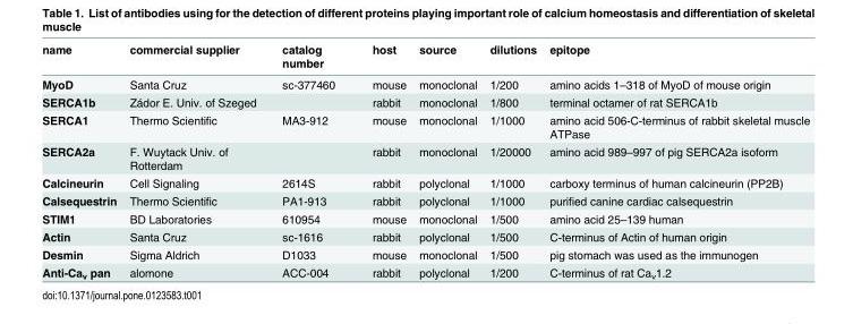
<table><thead><tr><td>name</td><td>commercial supplier</td><td>catalog number</td><td>host</td><td>source</td><td>dilutions</td><td>epitope</td></tr></thead><tbody><tr><td>MyoD</td><td>Santa Cruz</td><td>sc-377460</td><td>mouse</td><td>monoclonal</td><td>1/200</td><td>amino acids 1–318 of MyoD of mouse origin</td></tr><tr><td>SERCA1b</td><td>Zádor E. Univ. of Szeged</td><td></td><td>rabbit</td><td>monoclonal</td><td>1/800</td><td>terminal octamer of rat SERCA1b</td></tr><tr><td>SERCA1</td><td>Thermo Scientific</td><td>MA3-912</td><td>mouse</td><td>monoclonal</td><td>1/1000</td><td>amino acid 506-C-terminus of rabbit skeletal muscle ATPase</td></tr><tr><td>SERCA2a</td><td>F. Wuytack Univ. of Rotterdam</td><td></td><td>rabbit</td><td>monoclonal</td><td>1/20000</td><td>amino acid 989–997 of pig SERCA2a isoform</td></tr><tr><td>Calcineurin</td><td>Cell Signaling</td><td>2614S</td><td>rabbit</td><td>polyclonal</td><td>1/1000</td><td>carboxy terminus of human calcineurin (PP2B)</td></tr><tr><td>Calsequestrin</td><td>Thermo Scientific</td><td>PA1-913</td><td>rabbit</td><td>polyclonal</td><td>1/1000</td><td>purified canine cardiac calsequestrin</td></tr><tr><td>STIM1</td><td>BD Laboratories</td><td>610954</td><td>mouse</td><td>monoclonal</td><td>1/500</td><td>amino acid 25–139 human</td></tr><tr><td>Actin</td><td>Santa Cruz</td><td>sc-1616</td><td>rabbit</td><td>polyclonal</td><td>1/500</td><td>C-terminus of Actin of human origin</td></tr><tr><td>Desmin</td><td>Sigma Aldrich</td><td>D1033</td><td>mouse</td><td>monoclonal</td><td>1/500</td><td>pig stomach was used as the immunogen</td></tr><tr><td>Anti-Ca<sub>v</sub> pan</td><td>alomone</td><td>ACC-004</td><td>rabbit</td><td>polyclonal</td><td>1/200</td><td>C-terminus of rat Ca<sub>v</sub>1.2</td></tr></tbody></table>